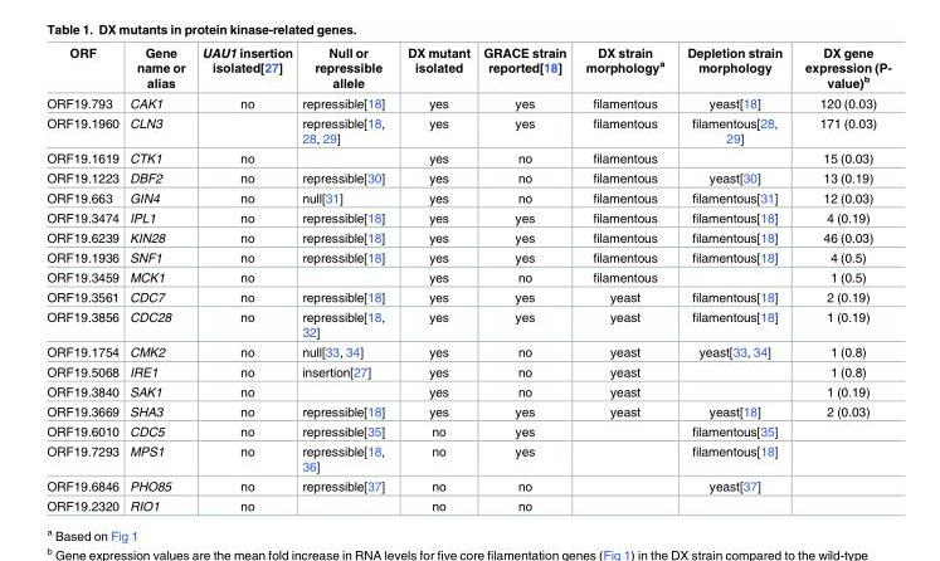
<table><thead><tr><td>ORF</td><td>Gene name or alias</td><td>UAU1 insertion isolated[27]</td><td>Null or repressible allele</td><td>DX mutant isolated</td><td>GRACE strain reported[18]</td><td>DX strain morphology<sup>a</sup></td><td>Depletion strain morphology</td><td>DX gene expression (P- value)<sup>b</sup></td></tr></thead><tbody><tr><td>ORF19.793</td><td>CAK1</td><td>no</td><td>repressible[18]</td><td>yes</td><td>yes</td><td>filamentous</td><td>yeast[18]</td><td>120 (0.03)</td></tr><tr><td>ORF19.1960</td><td>CLN3</td><td></td><td>repressible[18, 28, 29]</td><td>yes</td><td>yes</td><td>filamentous</td><td>filamentous[28, 29]</td><td>171 (0.03)</td></tr><tr><td>ORF19.1619</td><td>CTK1</td><td>no</td><td></td><td>yes</td><td>no</td><td>filamentous</td><td></td><td>15 (0.03)</td></tr><tr><td>ORF19.1223</td><td>DBF2</td><td>no</td><td>repressible[30]</td><td>yes</td><td>no</td><td>filamentous</td><td>yeast[30]</td><td>13 (0.19)</td></tr><tr><td>ORF19.663</td><td>GIN4</td><td>no</td><td>null[31]</td><td>yes</td><td>no</td><td>filamentous</td><td>filamentous[31]</td><td>12 (0.03)</td></tr><tr><td>ORF19.3474</td><td>IPL1</td><td>no</td><td>repressible[18]</td><td>yes</td><td>yes</td><td>filamentous</td><td>filamentous[18]</td><td>4 (0.19)</td></tr><tr><td>ORF19.6239</td><td>KIN28</td><td>no</td><td>repressible[18]</td><td>yes</td><td>yes</td><td>filamentous</td><td>filamentous[18]</td><td>46 (0.03)</td></tr><tr><td>ORF19.1936</td><td>SNF1</td><td>no</td><td>repressible[18]</td><td>yes</td><td>yes</td><td>filamentous</td><td>filamentous[18]</td><td>4 (0.5)</td></tr><tr><td>ORF19.3459</td><td>MCK1</td><td>no</td><td></td><td>yes</td><td>no</td><td>filamentous</td><td></td><td>1 (0.5)</td></tr><tr><td>ORF19.3561</td><td>CDC7</td><td>no</td><td>repressible[18]</td><td>yes</td><td>yes</td><td>yeast</td><td>filamentous[18]</td><td>2 (0.19)</td></tr><tr><td>ORF19.3856</td><td>CDC28</td><td>no</td><td>repressible[18, 32]</td><td>yes</td><td>yes</td><td>yeast</td><td>filamentous[18]</td><td>1 (0.19)</td></tr><tr><td>ORF19.1754</td><td>CMK2</td><td>no</td><td>null[33, 34]</td><td>yes</td><td>no</td><td>yeast</td><td>yeast[33, 34]</td><td>1 (0.8)</td></tr><tr><td>ORF19.5068</td><td>IRE1</td><td>no</td><td>insertion[27]</td><td>yes</td><td>no</td><td>yeast</td><td></td><td>1 (0.8)</td></tr><tr><td>ORF19.3840</td><td>SAK1</td><td>no</td><td></td><td>yes</td><td>no</td><td>yeast</td><td></td><td>1 (0.19)</td></tr><tr><td>ORF19.3669</td><td>SHA3</td><td>no</td><td>repressible[18]</td><td>yes</td><td>yes</td><td>yeast</td><td>yeast[18]</td><td>2 (0.03)</td></tr><tr><td>ORF19.6010</td><td>CDC5</td><td>no</td><td>repressible[35]</td><td>no</td><td>yes</td><td></td><td>filamentous[35]</td><td></td></tr><tr><td>ORF19.7293</td><td>MPS1</td><td>no</td><td>repressible[18, 36]</td><td>no</td><td>yes</td><td></td><td>filamentous[18]</td><td></td></tr><tr><td>ORF19.6846</td><td>PHO85</td><td>no</td><td>repressible[37]</td><td>no</td><td>no</td><td></td><td>yeast[37]</td><td></td></tr><tr><td>ORF19.2320</td><td>RIO1</td><td>no</td><td></td><td>no</td><td>no</td><td></td><td></td><td></td></tr></tbody></table>